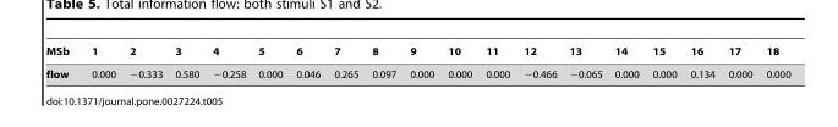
<table><thead><tr><td>MSb</td><td>1</td><td>2</td><td>3</td><td>4</td><td>5</td><td>6</td><td>7</td><td>8</td><td>9</td><td>10</td><td>11</td><td>12</td><td>13</td><td>14</td><td>15</td><td>16</td><td>17</td><td>18</td></tr></thead><tbody><tr><td>flow</td><td>0.000</td><td>−0.333</td><td>0.580</td><td>−0.258</td><td>0.000</td><td>0.046</td><td>0.265</td><td>0.097</td><td>0.000</td><td>0.000</td><td>0.000</td><td>−0.466</td><td>−0.065</td><td>0.000</td><td>0.000</td><td>0.134</td><td>0.000</td><td>0.000</td></tr></tbody></table>